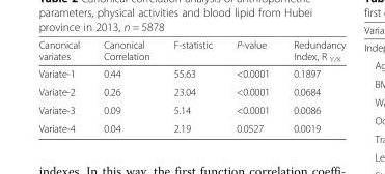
<table><thead><tr><td>Canonical variates</td><td>Canonical Correlation</td><td>F-statistic</td><td>P-value</td><td>Redundancy Index, R <sub>Y/X</sub></td></tr></thead><tbody><tr><td>Variate-1</td><td>0.44</td><td>55.63</td><td>&lt;0.0001</td><td>0.1897</td></tr><tr><td>Variate-2</td><td>0.26</td><td>23.04</td><td>&lt;0.0001</td><td>0.0684</td></tr><tr><td>Variate-3</td><td>0.09</td><td>5.14</td><td>&lt;0.0001</td><td>0.0086</td></tr><tr><td>Variate-4</td><td>0.04</td><td>2.19</td><td>0.0527</td><td>0.0019</td></tr></tbody></table>